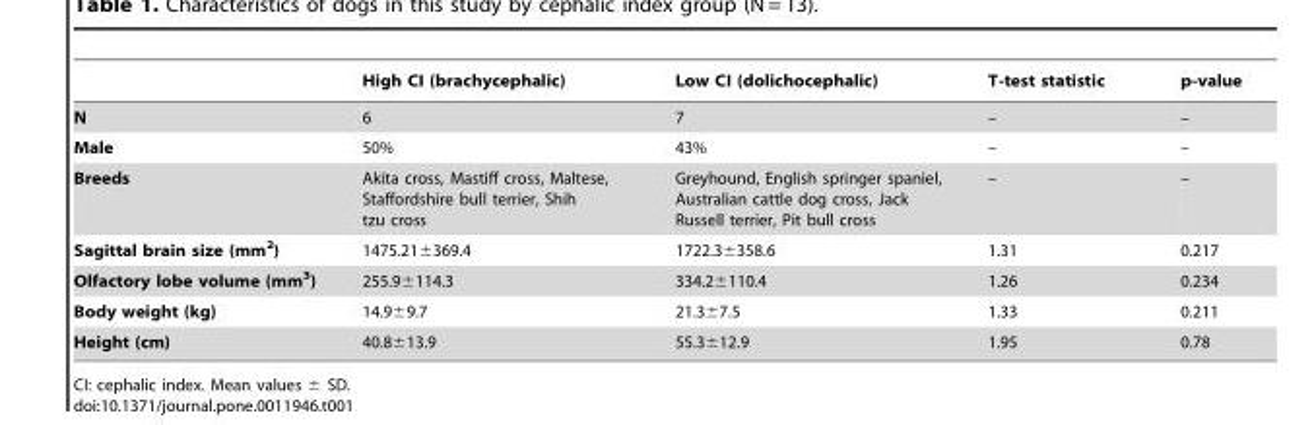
<table><thead><tr><td></td><td>High CI (brachycephalic)</td><td>Low CI (dolichocephalic)</td><td>T-test statistic</td><td>p-value</td></tr></thead><tbody><tr><td>N</td><td>6</td><td>7</td><td>–</td><td>–</td></tr><tr><td>Male</td><td>50%</td><td>43%</td><td>–</td><td>–</td></tr><tr><td>Breeds</td><td>Akita cross, Mastiff cross, Maltese, Staffordshire bull terrier, Shih tzu cross</td><td>Greyhound, English springer spaniel, Australian cattle dog cross, Jack Russell terrier, Pit bull cross</td><td>–</td><td>–</td></tr><tr><td>Sagittal brain size (mm<sup>2</sup>)</td><td>1475.21±369.4</td><td>1722.3±358.6</td><td>1.31</td><td>0.217</td></tr><tr><td>Olfactory lobe volume (mm<sup>3</sup>)</td><td>255.9±114.3</td><td>334.2±110.4</td><td>1.26</td><td>0.234</td></tr><tr><td>Body weight (kg)</td><td>14.9±9.7</td><td>21.3±7.5</td><td>1.33</td><td>0.211</td></tr><tr><td>Height (cm)</td><td>40.8±13.9</td><td>55.3±12.9</td><td>1.95</td><td>0.78</td></tr></tbody></table>